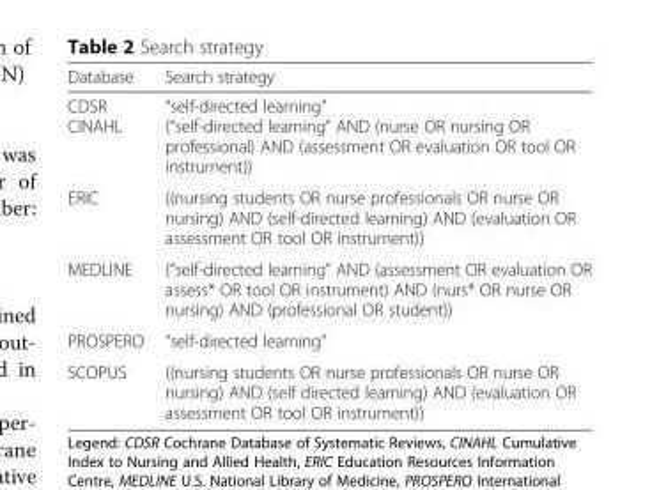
<table><thead><tr><td>Database</td><td>Search strategy</td></tr></thead><tbody><tr><td>CDSR CINAHL</td><td>“self-directed learning” (“self-directed learning” AND (nurse OR nursing OR professional) AND (assessment OR evaluation OR tool OR instrument))</td></tr><tr><td>ERIC</td><td>((nursing students OR nurse professionals OR nurse OR nursing) AND (self-directed learning) AND (evaluation OR assessment OR tool OR instrument))</td></tr><tr><td>MEDLINE</td><td>(“self-directed learning” AND (assessment OR evaluation OR assess* OR tool OR instrument) AND (nurs* OR nurse OR nursing) AND (professional OR student))</td></tr><tr><td>PROSPERO</td><td>“self-directed learning”</td></tr><tr><td>SCOPUS</td><td>((nursing students OR nurse professionals OR nurse OR nursing) AND (self directed learning) AND (evaluation OR assessment OR tool OR instrument))</td></tr></tbody></table>